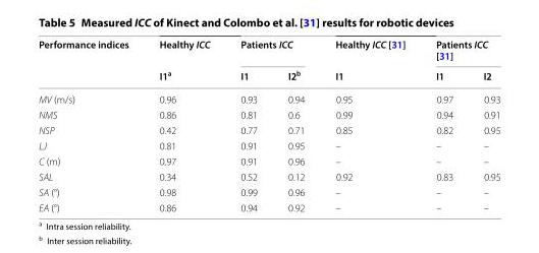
<table><thead><tr><td rowspan="2">Performance indices</td><td rowspan="2">Healthy ICC I1<sup>a</sup></td><td colspan="2">Patients ICC</td><td rowspan="2">Healthy ICC [31] I1</td><td colspan="2">Patients ICC [31]</td></tr><tr><td>I1</td><td>I2<sup>b</sup></td><td>I1</td><td>I2</td></tr></thead><tbody><tr><td>MV (m/s)</td><td>0.96</td><td>0.93</td><td>0.94</td><td>0.95</td><td>0.97</td><td>0.93</td></tr><tr><td>NMS</td><td>0.86</td><td>0.81</td><td>0.6</td><td>0.99</td><td>0.94</td><td>0.91</td></tr><tr><td>NSP</td><td>0.42</td><td>0.77</td><td>0.71</td><td>0.85</td><td>0.82</td><td>0.95</td></tr><tr><td>LJ</td><td>0.81</td><td>0.91</td><td>0.95</td><td>–</td><td>–</td><td>–</td></tr><tr><td>C (m)</td><td>0.97</td><td>0.91</td><td>0.96</td><td>–</td><td>–</td><td>–</td></tr><tr><td>SAL</td><td>0.34</td><td>0.52</td><td>0.12</td><td>0.92</td><td>0.83</td><td>0.95</td></tr><tr><td>SA (°)</td><td>0.98</td><td>0.99</td><td>0.96</td><td>–</td><td>–</td><td>–</td></tr><tr><td>EA (°)</td><td>0.86</td><td>0.94</td><td>0.92</td><td>–</td><td>–</td><td>–</td></tr></tbody></table>